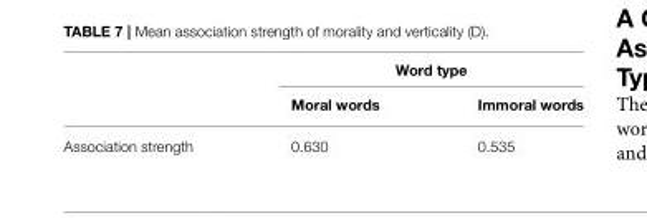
<table><thead><tr><td rowspan="2"></td><td colspan="2">Word type</td></tr><tr><td>Moral words</td><td>Immoral words</td></tr></thead><tbody><tr><td>Association strength</td><td>0.630</td><td>0.535</td></tr></tbody></table>